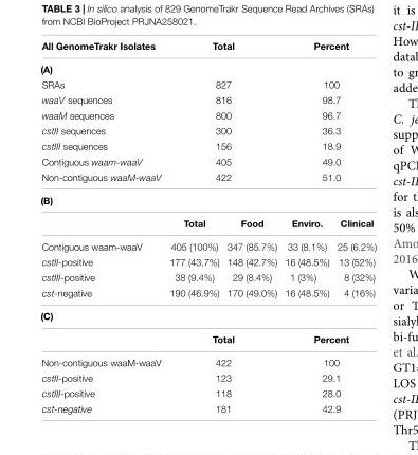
<table><thead><tr><td>All GenomeTrakr Isolates</td><td colspan="2">Total</td><td colspan="2">Percent</td></tr></thead><tbody><tr><td colspan="5">(A)</td></tr><tr><td>SRAs</td><td colspan="2">827</td><td colspan="2">100</td></tr><tr><td>waaV sequences</td><td colspan="2">816</td><td colspan="2">98.7</td></tr><tr><td>waaM sequences</td><td colspan="2">800</td><td colspan="2">96.7</td></tr><tr><td>cstII sequences</td><td colspan="2">300</td><td colspan="2">36.3</td></tr><tr><td>cstIII sequences</td><td colspan="2">156</td><td colspan="2">18.9</td></tr><tr><td>Contiguous waam-waaV</td><td colspan="2">405</td><td colspan="2">49.0</td></tr><tr><td>Non-contiguous waaM-waaV</td><td colspan="2">422</td><td colspan="2">51.0</td></tr><tr><td colspan="5">(B)</td></tr><tr><td></td><td>Total</td><td>Food</td><td>Enviro.</td><td>Clinical</td></tr><tr><td>Contiguous waam-waaV</td><td>405 (100%)</td><td>347 (85.7%)</td><td>33 (8.1%)</td><td>25 (6.2%)</td></tr><tr><td>cstII-positive</td><td>177 (43.7%)</td><td>148 (42.7%)</td><td>16 (48.5%)</td><td>13 (52%)</td></tr><tr><td>cstIII-positive</td><td>38 (9.4%)</td><td>29 (8.4%)</td><td>1 (3%)</td><td>8 (32%)</td></tr><tr><td>cst-negative</td><td>190 (46.9%)</td><td>170 (49.0%)</td><td>16 (48.5%)</td><td>4 (16%)</td></tr><tr><td colspan="5">(C)</td></tr><tr><td></td><td colspan="2">Total</td><td colspan="2">Percent</td></tr><tr><td>Non-contiguous waaM-waaV</td><td colspan="2">422</td><td colspan="2">100</td></tr><tr><td>cstII-positive</td><td colspan="2">123</td><td colspan="2">29.1</td></tr><tr><td>cstIII-positive</td><td colspan="2">118</td><td colspan="2">28.0</td></tr><tr><td>cst-negative</td><td colspan="2">181</td><td colspan="2">42.9</td></tr></tbody></table>